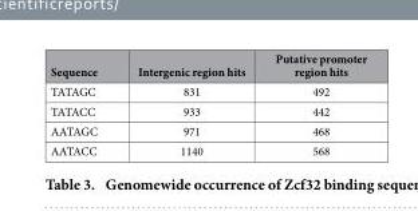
<table><thead><tr><td>Sequence</td><td>Intergenic region hits</td><td>Putative promoter region hits</td></tr></thead><tbody><tr><td>TATAGC</td><td>831</td><td>492</td></tr><tr><td>TATACC</td><td>933</td><td>442</td></tr><tr><td>AATAGC</td><td>971</td><td>468</td></tr><tr><td>AATACC</td><td>1140</td><td>568</td></tr></tbody></table>